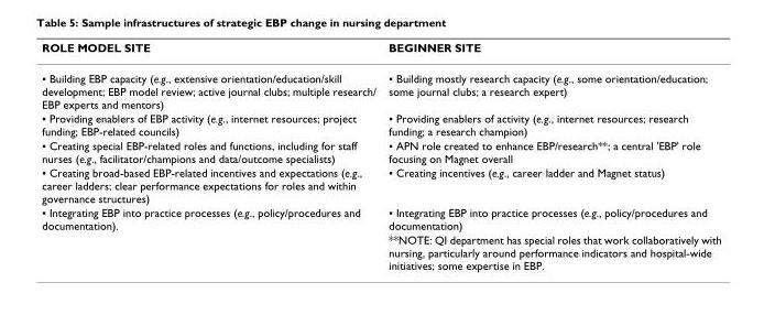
<table><thead><tr><td>ROLE MODEL SITE</td><td>BEGINNER SITE</td></tr></thead><tbody><tr><td>▪ Building EBP capacity (e.g., extensive orientation/education/skill development; EBP model review; active journal clubs; multiple research/ EBP experts and mentors)</td><td>▪ Building mostly research capacity (e.g., some orientation/education; some journal clubs; a research expert)</td></tr><tr><td>▪ Providing enablers of EBP activity (e.g., internet resources; project funding; EBP-related councils)</td><td>▪ Providing enablers of activity (e.g., internet resources; research funding; a research champion)</td></tr><tr><td>▪ Creating special EBP-related roles and functions, including for staff nurses (e.g., facilitator/champions and data/outcome specialists)</td><td>▪ APN role created to enhance EBP/research**; a central &#x27;EBP&#x27; role focusing on Magnet overall</td></tr><tr><td>▪ Creating broad-based EBP-related incentives and expectations (e.g., career ladders; clear performance expectations for roles and within governance structures)</td><td>▪ Creating incentives (e.g., career ladder and Magnet status)</td></tr><tr><td rowspan="2">▪ Integrating EBP into practice processes (e.g., policy/procedures and documentation).</td><td>▪ Integrating EBP into practice processes (e.g., policy/procedures and documentation)</td></tr><tr><td>**NOTE: QI department has special roles that work collaboratively with nursing, particularly around performance indicators and hospital-wide initiatives; some expertise in EBP.</td></tr></tbody></table>